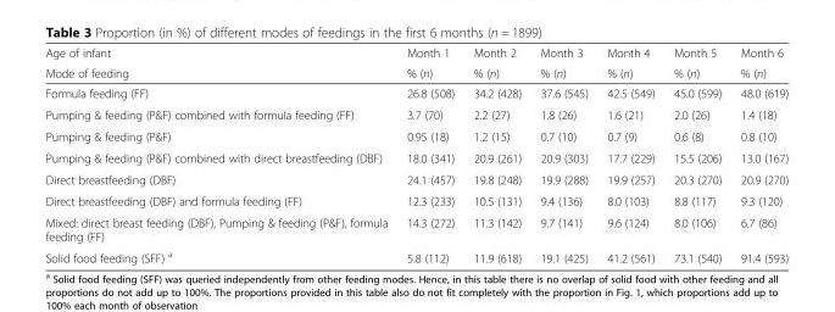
<table><thead><tr><td rowspan="2">Age of infant Mode of feeding</td><td rowspan="2">Month 1 % (n)</td><td rowspan="2">Month 2 % (n)</td><td rowspan="2">Month 3 % (n)</td><td rowspan="2">Month 4 % (n)</td><td rowspan="2">Month 5 % (n)</td><td rowspan="2">Month 6 % (n)</td></tr><tr></tr></thead><tbody><tr><td>Formula feeding (FF)</td><td>26.8 (508)</td><td>34.2 (428)</td><td>37.6 (545)</td><td>42.5 (549)</td><td>45.0 (599)</td><td>48.0 (619)</td></tr><tr><td>Pumping &amp; feeding (P&amp;F) combined with formula feeding (FF)</td><td>3.7 (70)</td><td>2.2 (27)</td><td>1.8 (26)</td><td>1.6 (21)</td><td>2.0 (26)</td><td>1.4 (18)</td></tr><tr><td>Pumping &amp; feeding (P&amp;F)</td><td>0.95 (18)</td><td>1.2 (15)</td><td>0.7 (10)</td><td>0.7 (9)</td><td>0.6 (8)</td><td>0.8 (10)</td></tr><tr><td>Pumping &amp; feeding (P&amp;F) combined with direct breastfeeding (DBF)</td><td>18.0 (341)</td><td>20.9 (261)</td><td>20.9 (303)</td><td>17.7 (229)</td><td>15.5 (206)</td><td>13.0 (167)</td></tr><tr><td>Direct breastfeeding (DBF)</td><td>24.1 (457)</td><td>19.8 (248)</td><td>19.9 (288)</td><td>19.9 (257)</td><td>20.3 (270)</td><td>20.9 (270)</td></tr><tr><td>Direct breastfeeding (DBF) and formula feeding (FF)</td><td>12.3 (233)</td><td>10.5 (131)</td><td>9.4 (136)</td><td>8.0 (103)</td><td>8.8 (117)</td><td>9.3 (120)</td></tr><tr><td>Mixed: direct breast feeding (DBF), Pumping &amp; feeding (P&amp;F), formula feeding (FF)</td><td>14.3 (272)</td><td>11.3 (142)</td><td>9.7 (141)</td><td>9.6 (124)</td><td>8.0 (106)</td><td>6.7 (86)</td></tr><tr><td>Solid food feeding (SFF) <sup>a</sup></td><td>5.8 (112)</td><td>11.9 (618)</td><td>19.1 (425)</td><td>41.2 (561)</td><td>73.1 (540)</td><td>91.4 (593)</td></tr></tbody></table>